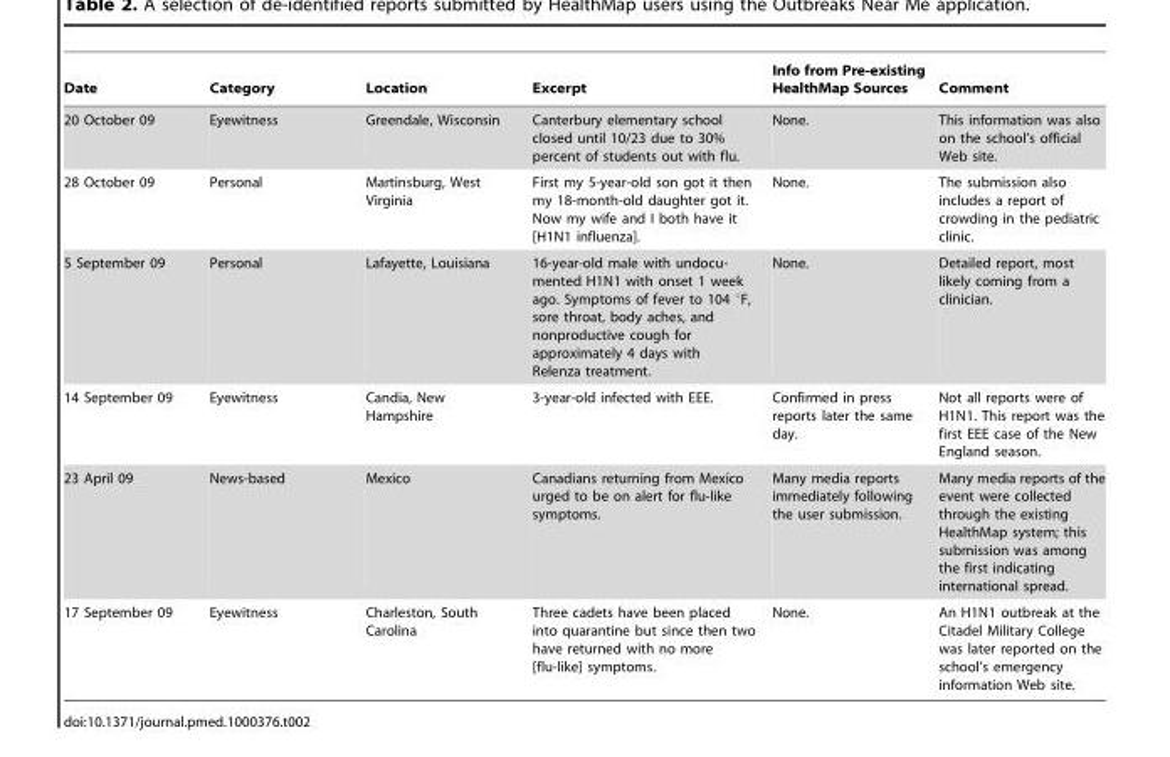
<table><thead><tr><td>Date</td><td>Category</td><td>Location</td><td>Excerpt</td><td>Info from Pre-existing HealthMap Sources</td><td>Comment</td></tr></thead><tbody><tr><td>20 October 09</td><td>Eyewitness</td><td>Greendale, Wisconsin</td><td>Canterbury elementary school closed until 10/23 due to 30% percent of students out with flu.</td><td>None.</td><td>This information was also on the school’s official Web site.</td></tr><tr><td>28 October 09</td><td>Personal</td><td>Martinsburg, West Virginia</td><td>First my 5-year-old son got it then my 18-month-old daughter got it. Now my wife and I both have it [H1N1 influenza].</td><td>None.</td><td>The submission also includes a report of crowding in the pediatric clinic.</td></tr><tr><td>5 September 09</td><td>Personal</td><td>Lafayette, Louisiana</td><td>16-year-old male with undocu- mented H1N1 with onset 1 week ago. Symptoms of fever to 104 uF, sore throat, body aches, and nonproductive cough for approximately 4 days with Relenza treatment.</td><td>None.</td><td>Detailed report, most likely coming from a clinician.</td></tr><tr><td>14 September 09</td><td>Eyewitness</td><td>Candia, New Hampshire</td><td>3-year-old infected with EEE.</td><td>Confirmed in press reports later the same day.</td><td>Not all reports were of H1N1. This report was the first EEE case of the New England season.</td></tr><tr><td>23 April 09</td><td>News-based</td><td>Mexico</td><td>Canadians returning from Mexico urged to be on alert for flu-like symptoms.</td><td>Many media reports immediately following the user submission.</td><td>Many media reports of the event were collected through the existing HealthMap system; this submission was among the first indicating international spread.</td></tr><tr><td>17 September 09</td><td>Eyewitness</td><td>Charleston, South Carolina</td><td>Three cadets have been placed into quarantine but since then two have returned with no more [flu-like] symptoms.</td><td>None.</td><td>An H1N1 outbreak at the Citadel Military College was later reported on the school’s emergency information Web site.</td></tr></tbody></table>